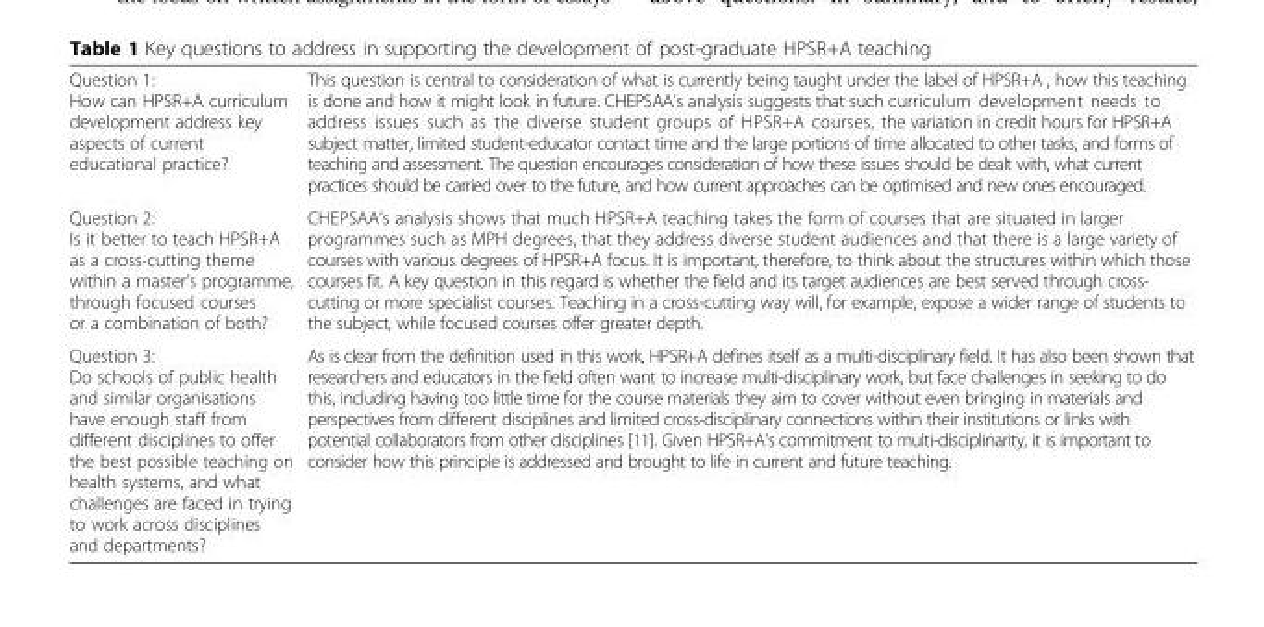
<table><tbody><tr><td>Question 1: How can HPSR+A curriculum development address key aspects of current educational practice?</td><td>This question is central to consideration of what is currently being taught under the label of HPSR+A , how this teaching is done and how it might look in future. CHEPSAA’s analysis suggests that such curriculum development needs to address issues such as the diverse student groups of HPSR+A courses, the variation in credit hours for HPSR+A subject matter, limited student-educator contact time and the large portions of time allocated to other tasks, and forms of teaching and assessment. The question encourages consideration of how these issues should be dealt with, what current practices should be carried over to the future, and how current approaches can be optimised and new ones encouraged.</td></tr><tr><td>Question 2: Is it better to teach HPSR+A as a cross-cutting theme within a master’s programme, through focused courses or a combination of both?</td><td>CHEPSAA’s analysis shows that much HPSR+A teaching takes the form of courses that are situated in larger programmes such as MPH degrees, that they address diverse student audiences and that there is a large variety of courses with various degrees of HPSR+A focus. It is important, therefore, to think about the structures within which those courses fit. A key question in this regard is whether the field and its target audiences are best served through cross- cutting or more specialist courses. Teaching in a cross-cutting way will, for example, expose a wider range of students to the subject, while focused courses offer greater depth.</td></tr><tr><td>Question 3: Do schools of public health and similar organisations have enough staff from different disciplines to offer the best possible teaching on health systems, and what challenges are faced in trying to work across disciplines and departments?</td><td>As is clear from the definition used in this work, HPSR+A defines itself as a multi-disciplinary field. It has also been shown that researchers and educators in the field often want to increase multi-disciplinary work, but face challenges in seeking to do this, including having too little time for the course materials they aim to cover without even bringing in materials and perspectives from different disciplines and limited cross-disciplinary connections within their institutions or links with potential collaborators from other disciplines [11]. Given HPSR+A’s commitment to multi-disciplinarity, it is important to consider how this principle is addressed and brought to life in current and future teaching.</td></tr></tbody></table>